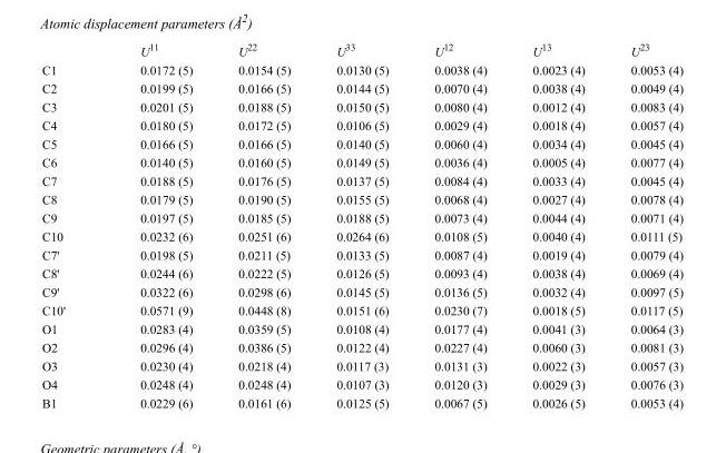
<table><thead><tr><td></td><td>U<sup>11</sup></td><td>U<sup>22</sup></td><td>U<sup>33</sup></td><td>U<sup>12</sup></td><td>U<sup>13</sup></td><td>U<sup>23</sup></td></tr></thead><tbody><tr><td>C1</td><td>0.0172 (5)</td><td>0.0154 (5)</td><td>0.0130 (5)</td><td>0.0038 (4)</td><td>0.0023 (4)</td><td>0.0053 (4)</td></tr><tr><td>C2</td><td>0.0199 (5)</td><td>0.0166 (5)</td><td>0.0144 (5)</td><td>0.0070 (4)</td><td>0.0038 (4)</td><td>0.0049 (4)</td></tr><tr><td>C3</td><td>0.0201 (5)</td><td>0.0188 (5)</td><td>0.0150 (5)</td><td>0.0080 (4)</td><td>0.0012 (4)</td><td>0.0083 (4)</td></tr><tr><td>C4</td><td>0.0180 (5)</td><td>0.0172 (5)</td><td>0.0106 (5)</td><td>0.0029 (4)</td><td>0.0018 (4)</td><td>0.0057 (4)</td></tr><tr><td>C5</td><td>0.0166 (5)</td><td>0.0166 (5)</td><td>0.0140 (5)</td><td>0.0060 (4)</td><td>0.0034 (4)</td><td>0.0045 (4)</td></tr><tr><td>C6</td><td>0.0140 (5)</td><td>0.0160 (5)</td><td>0.0149 (5)</td><td>0.0036 (4)</td><td>0.0005 (4)</td><td>0.0077 (4)</td></tr><tr><td>C7</td><td>0.0188 (5)</td><td>0.0176 (5)</td><td>0.0137 (5)</td><td>0.0084 (4)</td><td>0.0033 (4)</td><td>0.0045 (4)</td></tr><tr><td>C8</td><td>0.0179 (5)</td><td>0.0190 (5)</td><td>0.0155 (5)</td><td>0.0068 (4)</td><td>0.0027 (4)</td><td>0.0078 (4)</td></tr><tr><td>C9</td><td>0.0197 (5)</td><td>0.0185 (5)</td><td>0.0188 (5)</td><td>0.0073 (4)</td><td>0.0044 (4)</td><td>0.0071 (4)</td></tr><tr><td>C10</td><td>0.0232 (6)</td><td>0.0251 (6)</td><td>0.0264 (6)</td><td>0.0108 (5)</td><td>0.0040 (4)</td><td>0.0111 (5)</td></tr><tr><td>C7&#x27;</td><td>0.0198 (5)</td><td>0.0211 (5)</td><td>0.0133 (5)</td><td>0.0087 (4)</td><td>0.0019 (4)</td><td>0.0079 (4)</td></tr><tr><td>C8&#x27;</td><td>0.0244 (6)</td><td>0.0222 (5)</td><td>0.0126 (5)</td><td>0.0093 (4)</td><td>0.0038 (4)</td><td>0.0069 (4)</td></tr><tr><td>C9&#x27;</td><td>0.0322 (6)</td><td>0.0298 (6)</td><td>0.0145 (5)</td><td>0.0136 (5)</td><td>0.0032 (4)</td><td>0.0097 (5)</td></tr><tr><td>C10&#x27;</td><td>0.0571 (9)</td><td>0.0448 (8)</td><td>0.0151 (6)</td><td>0.0230 (7)</td><td>0.0018 (5)</td><td>0.0117 (5)</td></tr><tr><td>O1</td><td>0.0283 (4)</td><td>0.0359 (5)</td><td>0.0108 (4)</td><td>0.0177 (4)</td><td>0.0041 (3)</td><td>0.0064 (3)</td></tr><tr><td>O2</td><td>0.0296 (4)</td><td>0.0386 (5)</td><td>0.0122 (4)</td><td>0.0227 (4)</td><td>0.0060 (3)</td><td>0.0081 (3)</td></tr><tr><td>O3</td><td>0.0230 (4)</td><td>0.0218 (4)</td><td>0.0117 (3)</td><td>0.0131 (3)</td><td>0.0022 (3)</td><td>0.0057 (3)</td></tr><tr><td>O4</td><td>0.0248 (4)</td><td>0.0248 (4)</td><td>0.0107 (3)</td><td>0.0120 (3)</td><td>0.0029 (3)</td><td>0.0076 (3)</td></tr><tr><td>B1</td><td>0.0229 (6)</td><td>0.0161 (6)</td><td>0.0125 (5)</td><td>0.0067 (5)</td><td>0.0026 (5)</td><td>0.0053 (4)</td></tr></tbody></table>